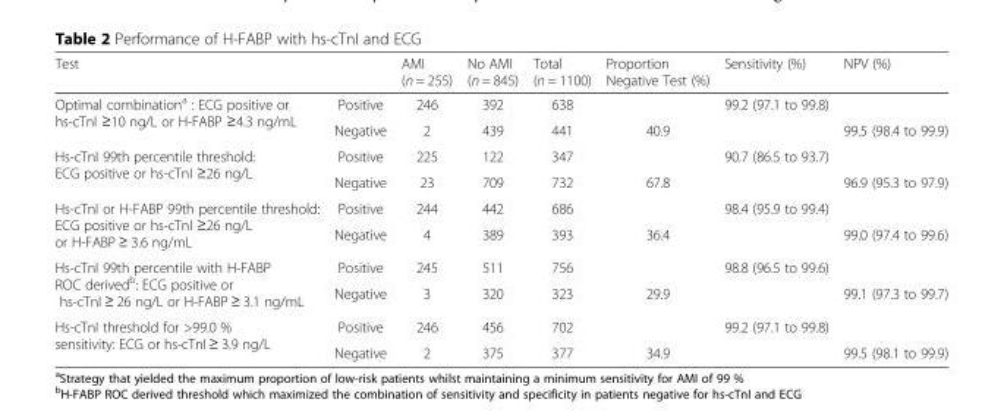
<table><thead><tr><td>Test</td><td></td><td>AMI (n = 255)</td><td>No AMI (n = 845)</td><td>Total (n = 1100)</td><td>Proportion Negative Test (%)</td><td>Sensitivity (%)</td><td>NPV (%)</td></tr></thead><tbody><tr><td rowspan="2">Optimal combination<sup>a</sup> : ECG positive or hs-cTnI ≥10 ng/L or H-FABP ≥4.3 ng/mL</td><td>Positive</td><td>246</td><td>392</td><td>638</td><td></td><td>99.2 (97.1 to 99.8)</td><td></td></tr><tr><td>Negative</td><td>2</td><td>439</td><td>441</td><td>40.9</td><td></td><td>99.5 (98.4 to 99.9)</td></tr><tr><td rowspan="2">Hs-cTnI 99th percentile threshold: ECG positive or hs-cTnI ≥26 ng/L</td><td>Positive</td><td>225</td><td>122</td><td>347</td><td></td><td>90.7 (86.5 to 93.7)</td><td></td></tr><tr><td>Negative</td><td>23</td><td>709</td><td>732</td><td>67.8</td><td></td><td>96.9 (95.3 to 97.9)</td></tr><tr><td rowspan="2">Hs-cTnI or H-FABP 99th percentile threshold: ECG positive or hs-cTnI ≥26 ng/L or H-FABP ≥ 3.6 ng/mL</td><td>Positive</td><td>244</td><td>442</td><td>686</td><td></td><td>98.4 (95.9 to 99.4)</td><td></td></tr><tr><td>Negative</td><td>4</td><td>389</td><td>393</td><td>36.4</td><td></td><td>99.0 (97.4 to 99.6)</td></tr><tr><td rowspan="2">Hs-cTnI 99th percentile with H-FABP ROC derived<sup>b</sup>: ECG positive or hs-cTnI ≥ 26 ng/L or H-FABP ≥ 3.1 ng/mL</td><td>Positive</td><td>245</td><td>511</td><td>756</td><td></td><td>98.8 (96.5 to 99.6)</td><td></td></tr><tr><td>Negative</td><td>3</td><td>320</td><td>323</td><td>29.9</td><td></td><td>99.1 (97.3 to 99.7)</td></tr><tr><td rowspan="2">Hs-cTnI threshold for &gt;99.0 % sensitivity: ECG or hs-cTnI ≥ 3.9 ng/L</td><td>Positive</td><td>246</td><td>456</td><td>702</td><td></td><td>99.2 (97.1 to 99.8)</td><td></td></tr><tr><td>Negative</td><td>2</td><td>375</td><td>377</td><td>34.9</td><td></td><td>99.5 (98.1 to 99.9)</td></tr></tbody></table>